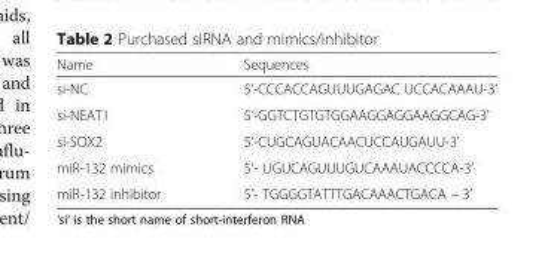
<table><thead><tr><td>Name</td><td>Sequences</td></tr></thead><tbody><tr><td>si-NC</td><td>5’-CCCACCAGUUUGAGAC UCCACAAAU-3’</td></tr><tr><td>si-NEAT1</td><td>5’-GGTCTGTGTGGAAGGAGGAAGGCAG-3’</td></tr><tr><td>si-SOX2</td><td>5’-CUGCAGUACAACUCCAUGAUU-3’</td></tr><tr><td>miR-132 mimics</td><td>5’- UGUCAGUUUGUCAAAUACCCCA-3’</td></tr><tr><td>miR-132 inhibitor</td><td>5’- TGGGGTATTTGACAAACTGACA − 3’</td></tr></tbody></table>